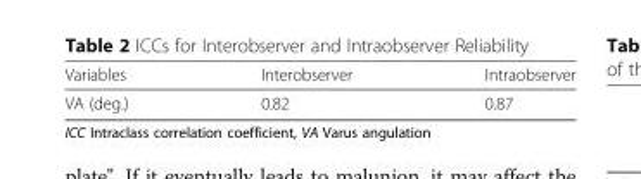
<table><thead><tr><td>Variables</td><td>Interobserver</td><td>Intraobserver</td></tr></thead><tbody><tr><td>VA (deg.)</td><td>0.82</td><td>0.87</td></tr></tbody></table>